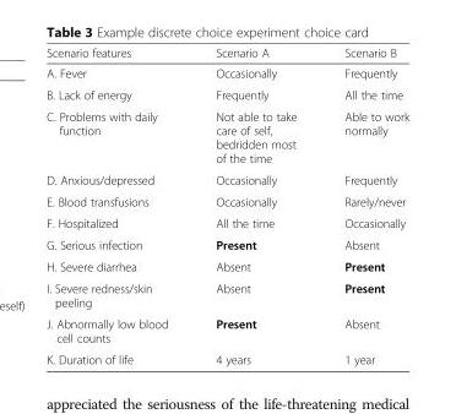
<table><thead><tr><td>Scenario features</td><td>Scenario A</td><td>Scenario B</td></tr></thead><tbody><tr><td>A. Fever</td><td>Occasionally</td><td>Frequently</td></tr><tr><td>B. Lack of energy</td><td>Frequently</td><td>All the time</td></tr><tr><td>C. Problems with daily function</td><td>Not able to take care of self, bedridden most of the time</td><td>Able to work normally</td></tr><tr><td>D. Anxious/depressed</td><td>Occasionally</td><td>Frequently</td></tr><tr><td>E. Blood transfusions</td><td>Occasionally</td><td>Rarely/never</td></tr><tr><td>F. Hospitalized</td><td>All the time</td><td>Occasionally</td></tr><tr><td>G. Serious infection</td><td>Present</td><td>Absent</td></tr><tr><td>H. Severe diarrhea</td><td>Absent</td><td>Present</td></tr><tr><td>I. Severe redness/skin peeling</td><td>Absent</td><td>Present</td></tr><tr><td>J. Abnormally low blood cell counts</td><td>Present</td><td>Absent</td></tr><tr><td>K. Duration of life</td><td>4 years</td><td>1 year</td></tr></tbody></table>